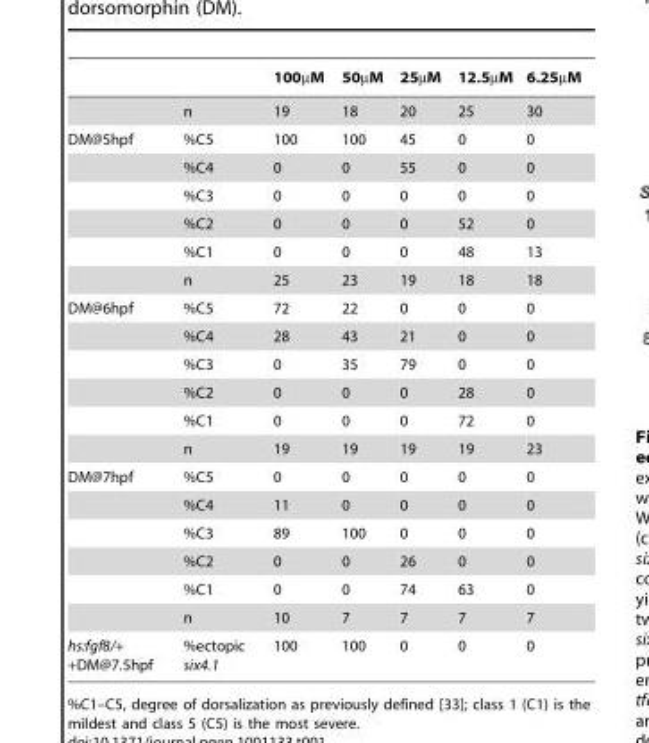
<table><thead><tr><td></td><td></td><td>100µM</td><td>50µM</td><td>25µM</td><td>12.5µM</td><td>6.25µM</td></tr></thead><tbody><tr><td></td><td>n</td><td>19</td><td>18</td><td>20</td><td>25</td><td>30</td></tr><tr><td rowspan="6">DM@5hpf</td><td>%C5</td><td>100</td><td>100</td><td>45</td><td>0</td><td>0</td></tr><tr><td>%C4</td><td>0</td><td>0</td><td>55</td><td>0</td><td>0</td></tr><tr><td>%C3</td><td>0</td><td>0</td><td>0</td><td>0</td><td>0</td></tr><tr><td>%C2</td><td>0</td><td>0</td><td>0</td><td>52</td><td>0</td></tr><tr><td>%C1</td><td>0</td><td>0</td><td>0</td><td>48</td><td>13</td></tr><tr><td>n</td><td>25</td><td>23</td><td>19</td><td>18</td><td>18</td></tr><tr><td rowspan="6">DM@6hpf</td><td>%C5</td><td>72</td><td>22</td><td>0</td><td>0</td><td>0</td></tr><tr><td>%C4</td><td>28</td><td>43</td><td>21</td><td>0</td><td>0</td></tr><tr><td>%C3</td><td>0</td><td>35</td><td>79</td><td>0</td><td>0</td></tr><tr><td>%C2</td><td>0</td><td>0</td><td>0</td><td>28</td><td>0</td></tr><tr><td>%C1</td><td>0</td><td>0</td><td>0</td><td>72</td><td>0</td></tr><tr><td>n</td><td>19</td><td>19</td><td>19</td><td>19</td><td>23</td></tr><tr><td rowspan="6">DM@7hpf</td><td>%C5</td><td>0</td><td>0</td><td>0</td><td>0</td><td>0</td></tr><tr><td>%C4</td><td>11</td><td>0</td><td>0</td><td>0</td><td>0</td></tr><tr><td>%C3</td><td>89</td><td>100</td><td>0</td><td>0</td><td>0</td></tr><tr><td>%C2</td><td>0</td><td>0</td><td>26</td><td>0</td><td>0</td></tr><tr><td>%C1</td><td>0</td><td>0</td><td>74</td><td>63</td><td>0</td></tr><tr><td>n</td><td>10</td><td>7</td><td>7</td><td>7</td><td>7</td></tr><tr><td>hs:fgf8/+ +DM@7.5hpf</td><td>%ectopic six4.1</td><td>100</td><td>100</td><td>0</td><td>0</td><td>0</td></tr></tbody></table>